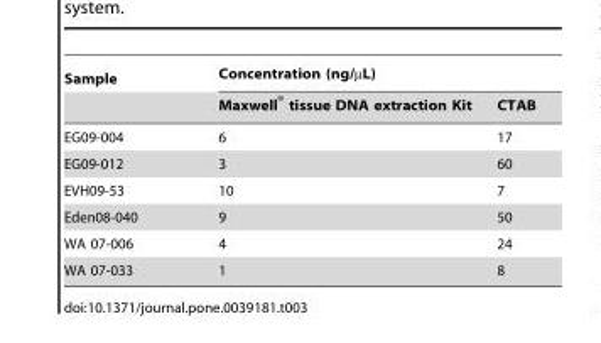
<table><thead><tr><td rowspan="2">Sample</td><td colspan="2">Concentration (ng/µL)</td></tr><tr><td>Maxwell<sup>®</sup> tissue DNA extraction Kit</td><td>CTAB</td></tr></thead><tbody><tr><td>EG09-004</td><td>6</td><td>17</td></tr><tr><td>EG09-012</td><td>3</td><td>60</td></tr><tr><td>EVH09-53</td><td>10</td><td>7</td></tr><tr><td>Eden08-040</td><td>9</td><td>50</td></tr><tr><td>WA 07-006</td><td>4</td><td>24</td></tr><tr><td>WA 07-033</td><td>1</td><td>8</td></tr></tbody></table>